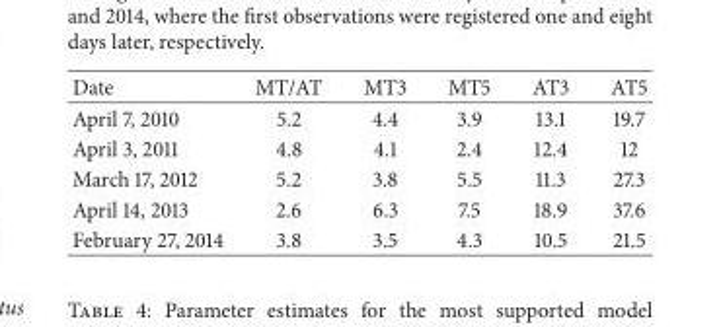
<table><thead><tr><td>Date</td><td>MT/AT</td><td>MT3</td><td>MT5</td><td>AT3</td><td>AT5</td></tr></thead><tbody><tr><td>April 7, 2010</td><td>5.2</td><td>4.4</td><td>3.9</td><td>13.1</td><td>19.7</td></tr><tr><td>April 3, 2011</td><td>4.8</td><td>4.1</td><td>2.4</td><td>12.4</td><td>12</td></tr><tr><td>March 17, 2012</td><td>5.2</td><td>3.8</td><td>5.5</td><td>11.3</td><td>27.3</td></tr><tr><td>April 14, 2013</td><td>2.6</td><td>6.3</td><td>7.5</td><td>18.9</td><td>37.6</td></tr><tr><td>February 27, 2014</td><td>3.8</td><td>3.5</td><td>4.3</td><td>10.5</td><td>21.5</td></tr></tbody></table>